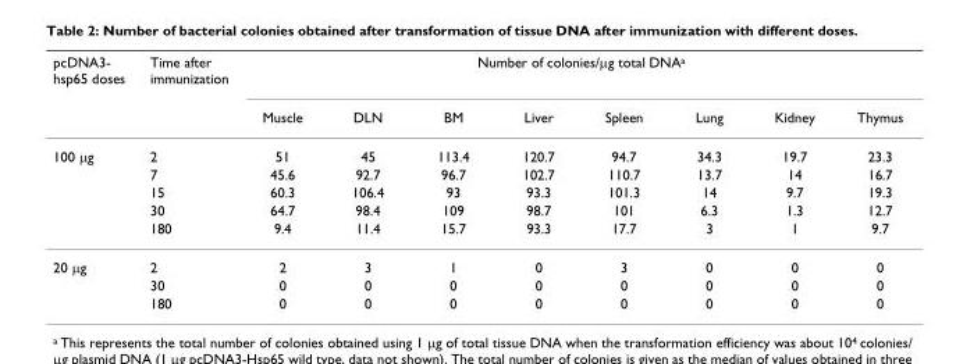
<table><thead><tr><td rowspan="2">pcDNA3- hsp65 doses</td><td rowspan="2">Time after immunization</td><td colspan="8">Number of colonies/µg total DNA<sup>a</sup></td></tr><tr><td>Muscle</td><td>DLN</td><td>BM</td><td>Liver</td><td>Spleen</td><td>Lung</td><td>Kidney</td><td>Thymus</td></tr></thead><tbody><tr><td rowspan="5">100 µg</td><td>2</td><td>51</td><td>45</td><td>113.4</td><td>120.7</td><td>94.7</td><td>34.3</td><td>19.7</td><td>23.3</td></tr><tr><td>7</td><td>45.6</td><td>92.7</td><td>96.7</td><td>102.7</td><td>110.7</td><td>13.7</td><td>14</td><td>16.7</td></tr><tr><td>15</td><td>60.3</td><td>106.4</td><td>93</td><td>93.3</td><td>101.3</td><td>14</td><td>9.7</td><td>19.3</td></tr><tr><td>30</td><td>64.7</td><td>98.4</td><td>109</td><td>98.7</td><td>101</td><td>6.3</td><td>1.3</td><td>12.7</td></tr><tr><td>180</td><td>9.4</td><td>11.4</td><td>15.7</td><td>93.3</td><td>17.7</td><td>3</td><td>1</td><td>9.7</td></tr><tr><td rowspan="3">20 µg</td><td>2</td><td>2</td><td>3</td><td>1</td><td>0</td><td>3</td><td>0</td><td>0</td><td>0</td></tr><tr><td>30</td><td>0</td><td>0</td><td>0</td><td>0</td><td>0</td><td>0</td><td>0</td><td>0</td></tr><tr><td>180</td><td>0</td><td>0</td><td>0</td><td>0</td><td>0</td><td>0</td><td>0</td><td>0</td></tr></tbody></table>